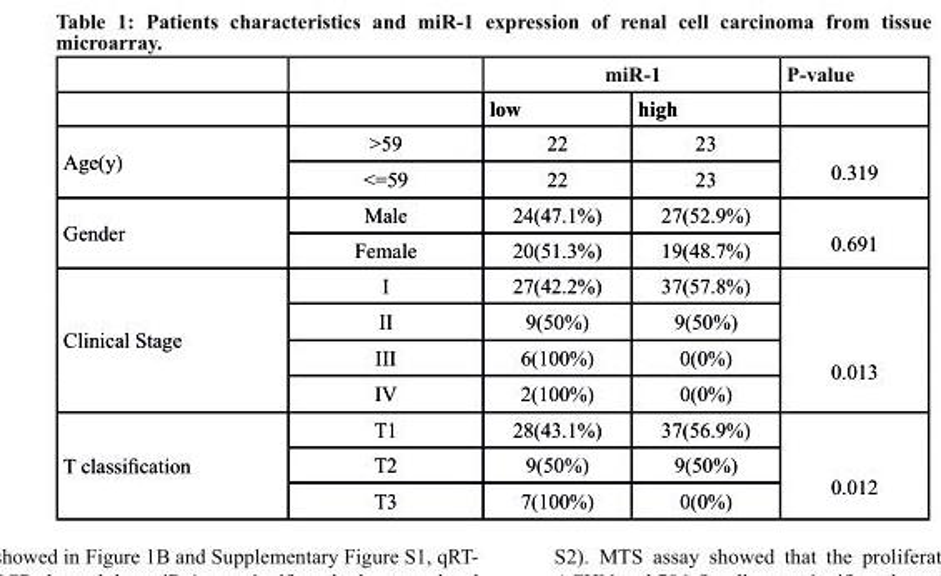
<table><thead><tr><td rowspan="2"></td><td rowspan="2"></td><td colspan="2">mir-1</td><td rowspan="2">P-value</td></tr><tr><td>low</td><td>high</td></tr></thead><tbody><tr><td rowspan="2">Age(y)</td><td>&gt;59</td><td>22</td><td>23</td><td rowspan="2">0.319</td></tr><tr><td>&lt;=59</td><td>22</td><td>23</td></tr><tr><td rowspan="2">Gender</td><td>Male</td><td>24(47.1%)</td><td>27(52.9%)</td><td rowspan="2">0.691</td></tr><tr><td>Female</td><td>20(51.3%)</td><td>19(48.7%)</td></tr><tr><td rowspan="4">Clinical Stage</td><td>I</td><td>27(42.2%)</td><td>37(57.8%)</td><td rowspan="4">0.013</td></tr><tr><td>II</td><td>9(50%)</td><td>9(50%)</td></tr><tr><td>III</td><td>6(100%)</td><td>0(0%)</td></tr><tr><td>IV</td><td>2(100%)</td><td>0(0%)</td></tr><tr><td rowspan="3">T classification</td><td>T1</td><td>28(43.1%)</td><td>37(56.9%)</td><td rowspan="3">0.012</td></tr><tr><td>T2</td><td>9(50%)</td><td>9(50%)</td></tr><tr><td>T3</td><td>7(100%)</td><td>0(0%)</td></tr></tbody></table>